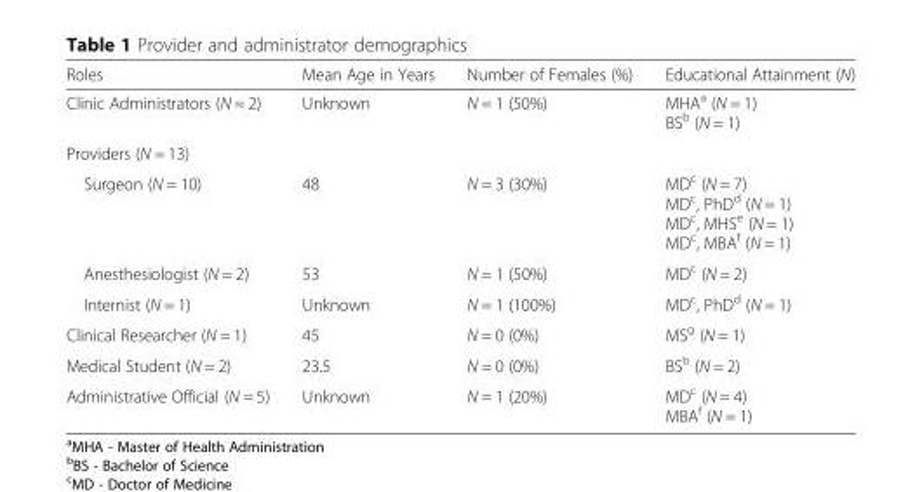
<table><thead><tr><td>Roles</td><td>Mean Age in Years</td><td>Number of Females (%)</td><td>Educational Attainment (N)</td></tr></thead><tbody><tr><td>Clinic Administrators (N = 2)</td><td>Unknown</td><td>N = 1 (50%)</td><td>MHA<sup>a</sup> (N = 1) BS<sup>b</sup> (N = 1)</td></tr><tr><td colspan="4">Providers (N = 13)</td></tr><tr><td>Surgeon (N = 10)</td><td>48</td><td>N = 3 (30%)</td><td>MD<sup>c</sup> (N = 7) MD<sup>c</sup>, PhD<sup>d</sup> (N = 1) MD<sup>c</sup>, MHS<sup>e</sup> (N = 1) MD<sup>c</sup>, MBA<sup>f</sup> (N = 1)</td></tr><tr><td>Anesthesiologist (N = 2)</td><td>53</td><td>N = 1 (50%)</td><td>MD<sup>c</sup> (N = 2)</td></tr><tr><td>Internist (N = 1)</td><td>Unknown</td><td>N = 1 (100%)</td><td>MD<sup>c</sup>, PhD<sup>d</sup> (N = 1)</td></tr><tr><td>Clinical Researcher (N = 1)</td><td>45</td><td>N = 0 (0%)</td><td>MS<sup>g</sup> (N = 1)</td></tr><tr><td>Medical Student (N = 2)</td><td>23.5</td><td>N = 0 (0%)</td><td>BS<sup>b</sup> (N = 2)</td></tr><tr><td>Administrative Official (N = 5)</td><td>Unknown</td><td>N = 1 (20%)</td><td>MD<sup>c</sup> (N = 4) MBA<sup>f</sup> (N = 1)</td></tr></tbody></table>